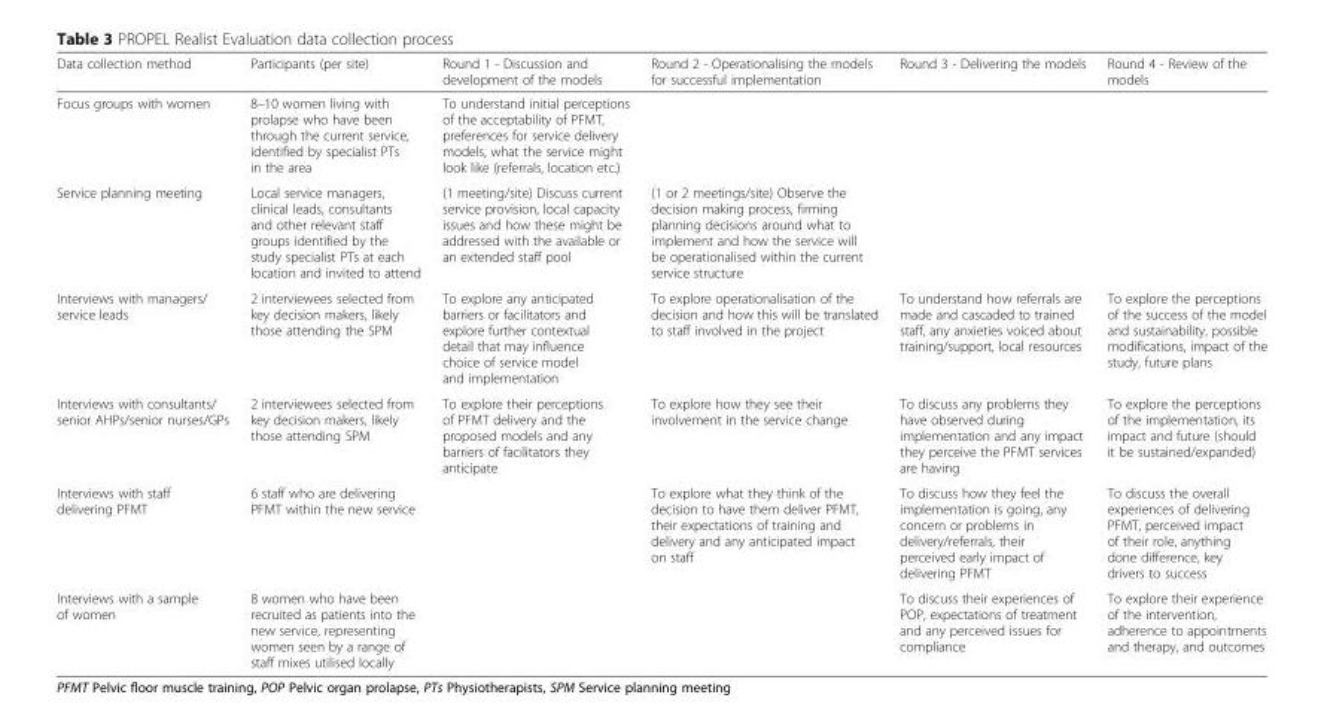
<table><thead><tr><td>Data collection method</td><td>Participants (per site)</td><td>Round 1 - Discussion and development of the models</td><td>Round 2 - Operationalising the models for successful implementation</td><td>Round 3 - Delivering the models</td><td>Round 4 - Review of the models</td></tr></thead><tbody><tr><td>Focus groups with women</td><td>8–10 women living with prolapse who have been through the current service, identified by specialist PTs in the area</td><td>To understand initial perceptions of the acceptability of PFMT, preferences for service delivery models, what the service might look like (referrals, location etc.)</td><td></td><td></td><td></td></tr><tr><td>Service planning meeting</td><td>Local service managers, clinical leads, consultants and other relevant staff groups identified by the study specialist PTs at each location and invited to attend</td><td>(1 meeting/site) Discuss current service provision, local capacity issues and how these might be addressed with the available or an extended staff pool</td><td>(1 or 2 meetings/site) Observe the decision making process, firming planning decisions around what to implement and how the service will be operationalised within the current service structure</td><td></td><td></td></tr><tr><td>Interviews with managers/ service leads</td><td>2 interviewees selected from key decision makers, likely those attending the SPM</td><td>To explore any anticipated barriers or facilitators and explore further contextual detail that may influence choice of service model and implementation</td><td>To explore operationalisation of the decision and how this will be translated to staff involved in the project</td><td>To understand how referrals are made and cascaded to trained staff, any anxieties voiced about training/support, local resources</td><td>To explore the perceptions of the success of the model and sustainability, possible modifications, impact of the study, future plans</td></tr><tr><td>Interviews with consultants/ senior AHPs/senior nurses/GPs</td><td>2 interviewees selected from key decision makers, likely those attending SPM</td><td>To explore their perceptions of PFMT delivery and the proposed models and any barriers of facilitators they anticipate</td><td>To explore how they see their involvement in the service change</td><td>To discuss any problems they have observed during implementation and any impact they perceive the PFMT services are having</td><td>To explore the perceptions of the implementation, its impact and future (should it be sustained/expanded)</td></tr><tr><td>Interviews with staff delivering PFMT</td><td>6 staff who are delivering PFMT within the new service</td><td></td><td>To explore what they think of the decision to have them deliver PFMT, their expectations of training and delivery and any anticipated impact on staff</td><td>To discuss how they feel the implementation is going, any concern or problems in delivery/referrals, their perceived early impact of delivering PFMT</td><td>To discuss the overall experiences of delivering PFMT, perceived impact of their role, anything done difference, key drivers to success</td></tr><tr><td>Interviews with a sample of women</td><td>8 women who have been recruited as patients into the new service, representing women seen by a range of staff mixes utilised locally</td><td></td><td></td><td>To discuss their experiences of POP, expectations of treatment and any perceived issues for compliance</td><td>To explore their experience of the intervention, adherence to appointments and therapy, and outcomes</td></tr></tbody></table>